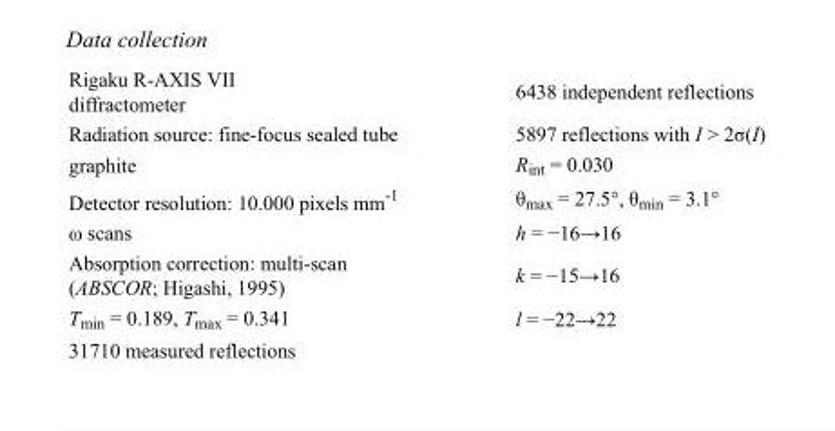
<table><tbody><tr><td>Rigaku R-AXIS VII diffractometer</td><td>6438 independent reflections</td></tr><tr><td>Radiation source: fine-focus sealed tube</td><td>5897 reflections with I &gt; 2σ(I)</td></tr><tr><td>graphite</td><td>R<sub>int</sub> = 0.030</td></tr><tr><td>Detector resolution: 10.000 pixels mm<sup>-1</sup></td><td>θ<sub>max</sub> = 27.5°, θ<sub>min</sub> = 3.1°</td></tr><tr><td>ω scans</td><td>h = −16→16</td></tr><tr><td>Absorption correction: multi-scan (ABSCOR; Higashi, 1995)</td><td>k = −15→16</td></tr><tr><td>T<sub>min</sub> = 0.189, T<sub>max</sub> = 0.341</td><td>l = −22→22</td></tr><tr><td>31710 measured reflections</td><td></td></tr></tbody></table>